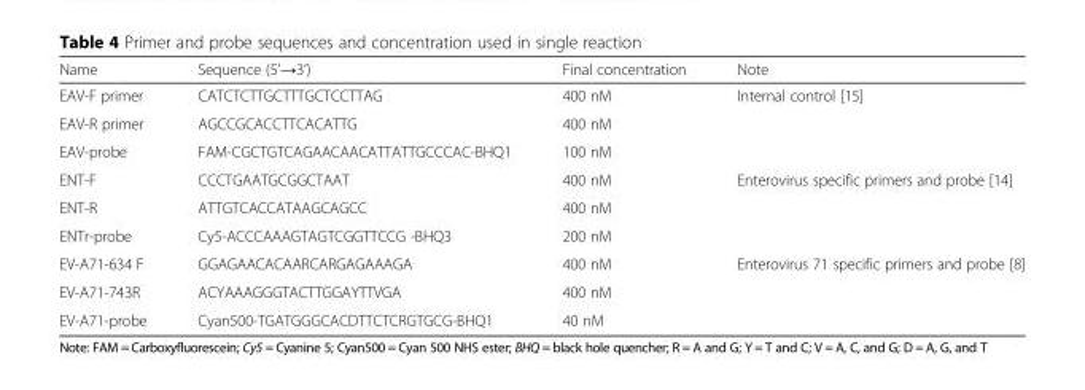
<table><thead><tr><td>Name</td><td>Sequence (5’→3’)</td><td>Final concentration</td><td>Note</td></tr></thead><tbody><tr><td>EAV-F primer</td><td>CATCTCTTGCTTTGCTCCTTAG</td><td>400 nM</td><td rowspan="3">Internal control [15]</td></tr><tr><td>EAV-R primer</td><td>AGCCGCACCTTCACATTG</td><td>400 nM</td></tr><tr><td>EAV-probe</td><td>FAM-CGCTGTCAGAACAACATTATTGCCCAC-BHQ1</td><td>100 nM</td></tr><tr><td>ENT-F</td><td>CCCTGAATGCGGCTAAT</td><td>400 nM</td><td rowspan="3">Enterovirus specific primers and probe [14]</td></tr><tr><td>ENT-R</td><td>ATTGTCACCATAAGCAGCC</td><td>400 nM</td></tr><tr><td>ENTr-probe</td><td>Cy5-ACCCAAAGTAGTCGGTTCCG -BHQ3</td><td>200 nM</td></tr><tr><td>EV-A71-634 F</td><td>GGAGAACACAARCARGAGAAAGA</td><td>400 nM</td><td rowspan="3">Enterovirus 71 specific primers and probe [8]</td></tr><tr><td>EV-A71-743R</td><td>ACYAAAGGGTACTTGGAYTTVGA</td><td>400 nM</td></tr><tr><td>EV-A71-probe</td><td>Cyan500-TGATGGGCACDTTCTCRGTGCG-BHQ1</td><td>40 nM</td></tr></tbody></table>